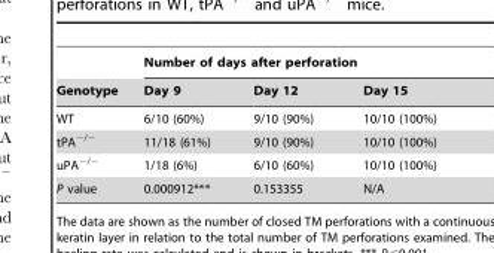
<table><thead><tr><td rowspan="2">Genotype</td><td colspan="3">Number of days after perforation</td></tr><tr><td>Day 9</td><td>Day 12</td><td>Day 15</td></tr></thead><tbody><tr><td>WT</td><td>6/10 (60%)</td><td>9/10 (90%)</td><td>10/10 (100%)</td></tr><tr><td>tPA<sup>−/−</sup></td><td>11/18 (61%)</td><td>9/10 (90%)</td><td>10/10 (100%)</td></tr><tr><td>uPA<sup>−/−</sup></td><td>1/18 (6%)</td><td>6/10 (60%)</td><td>10/10 (100%)</td></tr><tr><td>P value</td><td>0.000912***</td><td>0.153355</td><td>N/A</td></tr></tbody></table>